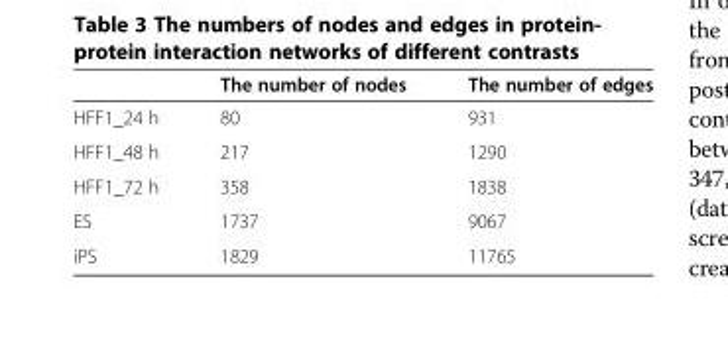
<table><thead><tr><td></td><td>The number of nodes</td><td>The number of edges</td></tr></thead><tbody><tr><td>HFF1_24 h</td><td>80</td><td>931</td></tr><tr><td>HFF1_48 h</td><td>217</td><td>1290</td></tr><tr><td>HFF1_72 h</td><td>358</td><td>1838</td></tr><tr><td>ES</td><td>1737</td><td>9067</td></tr><tr><td>iPS</td><td>1829</td><td>11765</td></tr></tbody></table>